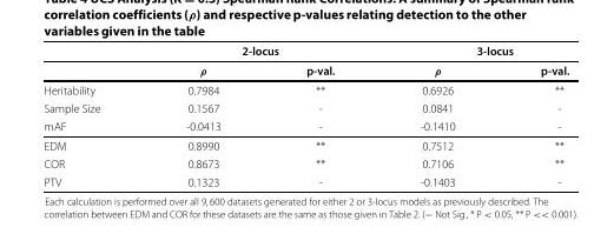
<table><thead><tr><td rowspan="2"></td><td colspan="2">2-locus</td><td colspan="2">3-locus</td></tr><tr><td>ρ</td><td>p-val.</td><td>ρ</td><td>p-val.</td></tr></thead><tbody><tr><td>Heritability</td><td>0.7984</td><td>**</td><td>0.6926</td><td>**</td></tr><tr><td>Sample Size</td><td>0.1567</td><td>-</td><td>0.0841</td><td>-</td></tr><tr><td>mAF</td><td>-0.0413</td><td>-</td><td>-0.1410</td><td>-</td></tr><tr><td>EDM</td><td>0.8990</td><td>**</td><td>0.7512</td><td>**</td></tr><tr><td>COR</td><td>0.8673</td><td>**</td><td>0.7106</td><td>**</td></tr><tr><td>PTV</td><td>0.1323</td><td>-</td><td>-0.1403</td><td>-</td></tr></tbody></table>